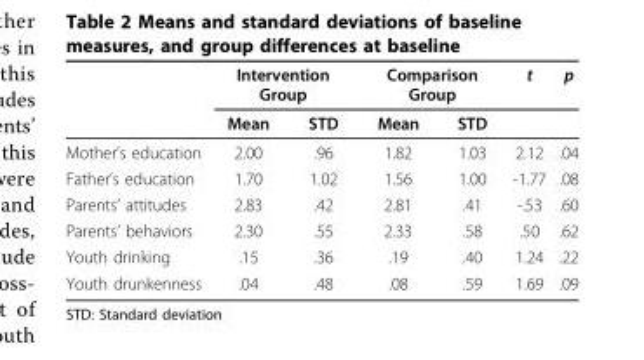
<table><thead><tr><td rowspan="2"></td><td colspan="2">Intervention Group</td><td colspan="2">Comparison Group</td><td rowspan="2">t</td><td rowspan="2">p</td></tr><tr><td>Mean</td><td>STD</td><td>Mean</td><td>STD</td></tr></thead><tbody><tr><td>Mother’s education</td><td>2.00</td><td>.96</td><td>1.82</td><td>1.03</td><td>2.12</td><td>.04</td></tr><tr><td>Father’s education</td><td>1.70</td><td>1.02</td><td>1.56</td><td>1.00</td><td>-1.77</td><td>.08</td></tr><tr><td>Parents’ attitudes</td><td>2.83</td><td>.42</td><td>2.81</td><td>.41</td><td>-.53</td><td>.60</td></tr><tr><td>Parents’ behaviors</td><td>2.30</td><td>.55</td><td>2.33</td><td>.58</td><td>.50</td><td>.62</td></tr><tr><td>Youth drinking</td><td>.15</td><td>.36</td><td>.19</td><td>.40</td><td>1.24</td><td>.22</td></tr><tr><td>Youth drunkenness</td><td>.04</td><td>.48</td><td>.08</td><td>.59</td><td>1.69</td><td>.09</td></tr></tbody></table>